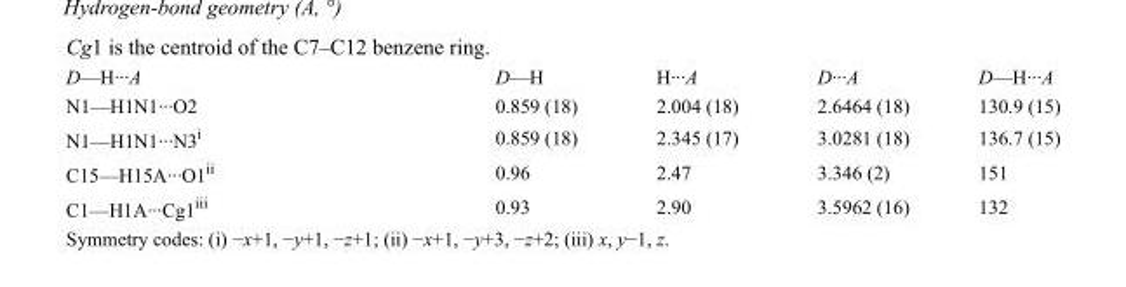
<table><tbody><tr><td>D—H···A</td><td>D—H</td><td>H···A</td><td>D···A</td><td>D—H···A</td></tr><tr><td>N1—H1N1···O2</td><td>0.859 (18)</td><td>2.004 (18)</td><td>2.6464 (18)</td><td>130.9 (15)</td></tr><tr><td>N1—H1N1···N3<sup>i</sup></td><td>0.859 (18)</td><td>2.345 (17)</td><td>3.0281 (18)</td><td>136.7 (15)</td></tr><tr><td>C15—H15A···O1<sup>ii</sup></td><td>0.96</td><td>2.47</td><td>3.346 (2)</td><td>151</td></tr><tr><td>C1—H1A···Cg1<sup>iii</sup></td><td>0.93</td><td>2.90</td><td>3.5962 (16)</td><td>132</td></tr></tbody></table>